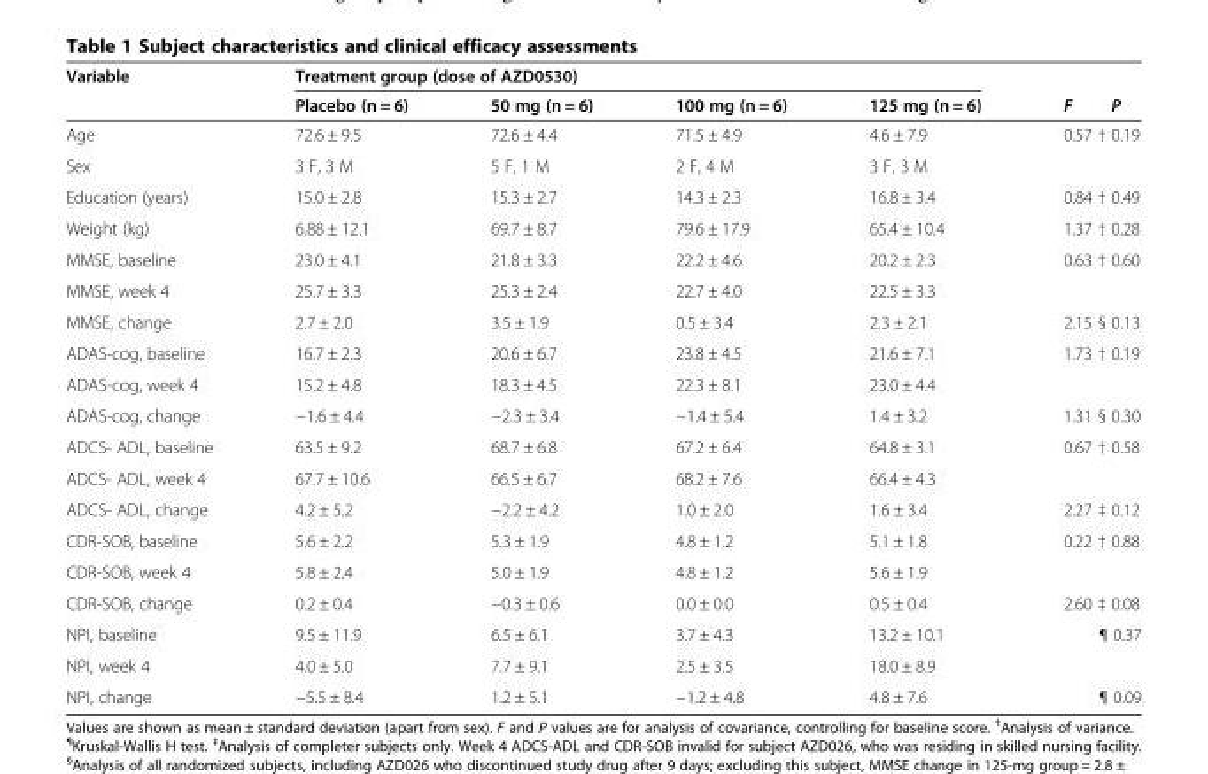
<table><thead><tr><td rowspan="2">Variable</td><td colspan="4">Treatment group (dose of AZD0530)</td><td rowspan="2">F P</td></tr><tr><td>Placebo (n = 6)</td><td>50 mg (n = 6)</td><td>100 mg (n = 6)</td><td>125 mg (n = 6)</td></tr></thead><tbody><tr><td>Age</td><td>72.6 ± 9.5</td><td>72.6 ± 4.4</td><td>71.5 ± 4.9</td><td>4.6 ± 7.9</td><td>0.57 † 0.19</td></tr><tr><td>Sex</td><td>3 F, 3 M</td><td>5 F, 1 M</td><td>2 F, 4 M</td><td>3 F, 3 M</td><td></td></tr><tr><td>Education (years)</td><td>15.0 ± 2.8</td><td>15.3 ± 2.7</td><td>14.3 ± 2.3</td><td>16.8 ± 3.4</td><td>0.84 † 0.49</td></tr><tr><td>Weight (kg)</td><td>6.88 ± 12.1</td><td>69.7 ± 8.7</td><td>79.6 ± 17.9</td><td>65.4 ± 10.4</td><td>1.37 † 0.28</td></tr><tr><td>MMSE, baseline</td><td>23.0 ± 4.1</td><td>21.8 ± 3.3</td><td>22.2 ± 4.6</td><td>20.2 ± 2.3</td><td>0.63 † 0.60</td></tr><tr><td>MMSE, week 4</td><td>25.7 ± 3.3</td><td>25.3 ± 2.4</td><td>22.7 ± 4.0</td><td>22.5 ± 3.3</td><td></td></tr><tr><td>MMSE, change</td><td>2.7 ± 2.0</td><td>3.5 ± 1.9</td><td>0.5 ± 3.4</td><td>2.3 ± 2.1</td><td>2.15 § 0.13</td></tr><tr><td>ADAS-cog, baseline</td><td>16.7 ± 2.3</td><td>20.6 ± 6.7</td><td>23.8 ± 4.5</td><td>21.6 ± 7.1</td><td>1.73 † 0.19</td></tr><tr><td>ADAS-cog, week 4</td><td>15.2 ± 4.8</td><td>18.3 ± 4.5</td><td>22.3 ± 8.1</td><td>23.0 ± 4.4</td><td></td></tr><tr><td>ADAS-cog, change</td><td>−1.6 ± 4.4</td><td>−2.3 ± 3.4</td><td>−1.4 ± 5.4</td><td>1.4 ± 3.2</td><td>1.31 § 0.30</td></tr><tr><td>ADCS- ADL, baseline</td><td>63.5 ± 9.2</td><td>68.7 ± 6.8</td><td>67.2 ± 6.4</td><td>64.8 ± 3.1</td><td>0.67 † 0.58</td></tr><tr><td>ADCS- ADL, week 4</td><td>67.7 ± 10.6</td><td>66.5 ± 6.7</td><td>68.2 ± 7.6</td><td>66.4 ± 4.3</td><td></td></tr><tr><td>ADCS- ADL, change</td><td>4.2 ± 5.2</td><td>−2.2 ± 4.2</td><td>1.0 ± 2.0</td><td>1.6 ± 3.4</td><td>2.27 ‡ 0.12</td></tr><tr><td>CDR-SOB, baseline</td><td>5.6 ± 2.2</td><td>5.3 ± 1.9</td><td>4.8 ± 1.2</td><td>5.1 ± 1.8</td><td>0.22 † 0.88</td></tr><tr><td>CDR-SOB, week 4</td><td>5.8 ± 2.4</td><td>5.0 ± 1.9</td><td>4.8 ± 1.2</td><td>5.6 ± 1.9</td><td></td></tr><tr><td>CDR-SOB, change</td><td>0.2 ± 0.4</td><td>−0.3 ± 0.6</td><td>0.0 ± 0.0</td><td>0.5 ± 0.4</td><td>2.60 ‡ 0.08</td></tr><tr><td>NPI, baseline</td><td>9.5 ± 11.9</td><td>6.5 ± 6.1</td><td>3.7 ± 4.3</td><td>13.2 ± 10.1</td><td>¶ 0.37</td></tr><tr><td>NPI, week 4</td><td>4.0 ± 5.0</td><td>7.7 ± 9.1</td><td>2.5 ± 3.5</td><td>18.0 ± 8.9</td><td></td></tr><tr><td>NPI, change</td><td>−5.5 ± 8.4</td><td>1.2 ± 5.1</td><td>−1.2 ± 4.8</td><td>4.8 ± 7.6</td><td>¶ 0.09</td></tr></tbody></table>